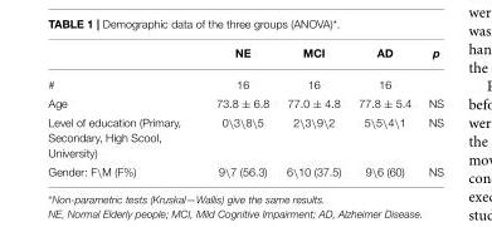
<table><thead><tr><td></td><td>NE</td><td>MCI</td><td>AD</td><td>p</td></tr></thead><tbody><tr><td>#</td><td>16</td><td>16</td><td>16</td><td></td></tr><tr><td>Age</td><td>73.8 ± 6.8</td><td>77.0 ± 4.8</td><td>77.8 ± 5.4</td><td>NS</td></tr><tr><td>Level of education (Primary, Secondary, High Scool, University)</td><td>0\3\8\5</td><td>2\3\9\2</td><td>5\5\4\1</td><td>NS</td></tr><tr><td>Gender: F\M (F%)</td><td>9\7 (56.3)</td><td>6\10 (37.5)</td><td>9\6 (60)</td><td>NS</td></tr></tbody></table>